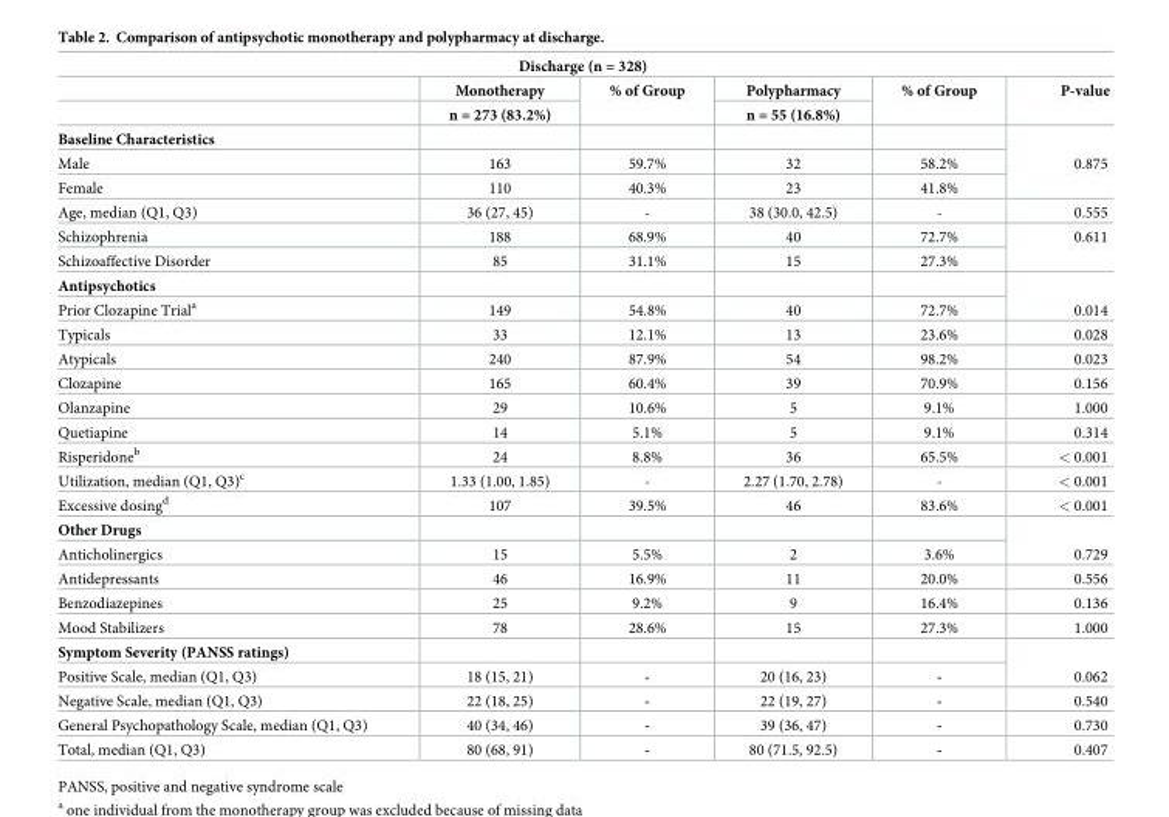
<table><thead><tr><td colspan="6">Discharge (n = 328)</td></tr><tr><td rowspan="2"></td><td rowspan="2">Monotherapy n = 273 (83.2%)</td><td rowspan="2">% of Group</td><td rowspan="2">Polypharmacy n = 55 (16.8%)</td><td rowspan="2">% of Group</td><td rowspan="2">P-value</td></tr><tr></tr></thead><tbody><tr><td colspan="6">Baseline Characteristics</td></tr><tr><td>Male</td><td>163</td><td>59.7%</td><td>32</td><td>58.2%</td><td rowspan="2">0.875</td></tr><tr><td>Female</td><td>110</td><td>40.3%</td><td>23</td><td>41.8%</td></tr><tr><td>Age, median (Q1, Q3)</td><td>36 (27, 45)</td><td>-</td><td>38 (30.0, 42.5)</td><td>-</td><td>0.555</td></tr><tr><td>Schizophrenia</td><td>188</td><td>68.9%</td><td>40</td><td>72.7%</td><td rowspan="2">0.611</td></tr><tr><td>Schizoaffective Disorder</td><td>85</td><td>31.1%</td><td>15</td><td>27.3%</td></tr><tr><td colspan="6">Antipsychotics</td></tr><tr><td>Prior Clozapine Trial<sup>a</sup></td><td>149</td><td>54.8%</td><td>40</td><td>72.7%</td><td>0.014</td></tr><tr><td>Typicals</td><td>33</td><td>12.1%</td><td>13</td><td>23.6%</td><td>0.028</td></tr><tr><td>Atypicals</td><td>240</td><td>87.9%</td><td>54</td><td>98.2%</td><td>0.023</td></tr><tr><td>Clozapine</td><td>165</td><td>60.4%</td><td>39</td><td>70.9%</td><td>0.156</td></tr><tr><td>Olanzapine</td><td>29</td><td>10.6%</td><td>5</td><td>9.1%</td><td>1.000</td></tr><tr><td>Quetiapine</td><td>14</td><td>5.1%</td><td>5</td><td>9.1%</td><td>0.314</td></tr><tr><td>Risperidone<sup>b</sup></td><td>24</td><td>8.8%</td><td>36</td><td>65.5%</td><td>&lt; 0.001</td></tr><tr><td>Utilization, median (Q1, Q3)<sup>c</sup></td><td>1.33 (1.00, 1.85)</td><td>-</td><td>2.27 (1.70, 2.78)</td><td>-</td><td>&lt; 0.001</td></tr><tr><td>Excessive dosing<sup>d</sup></td><td>107</td><td>39.5%</td><td>46</td><td>83.6%</td><td>&lt; 0.001</td></tr><tr><td colspan="6">Other Drugs</td></tr><tr><td>Anticholinergics</td><td>15</td><td>5.5%</td><td>2</td><td>3.6%</td><td>0.729</td></tr><tr><td>Antidepressants</td><td>46</td><td>16.9%</td><td>11</td><td>20.0%</td><td>0.556</td></tr><tr><td>Benzodiazepines</td><td>25</td><td>9.2%</td><td>9</td><td>16.4%</td><td>0.136</td></tr><tr><td>Mood Stabilizers</td><td>78</td><td>28.6%</td><td>15</td><td>27.3%</td><td>1.000</td></tr><tr><td colspan="6">Symptom Severity (PANSS ratings)</td></tr><tr><td>Positive Scale, median (Q1, Q3)</td><td>18 (15, 21)</td><td>-</td><td>20 (16, 23)</td><td>-</td><td>0.062</td></tr><tr><td>Negative Scale, median (Q1, Q3)</td><td>22 (18, 25)</td><td>-</td><td>22 (19, 27)</td><td>-</td><td>0.540</td></tr><tr><td>General Psychopathology Scale, median (Q1, Q3)</td><td>40 (34, 46)</td><td>-</td><td>39 (36, 47)</td><td>-</td><td>0.730</td></tr><tr><td>Total, median (Q1, Q3)</td><td>80 (68, 91)</td><td>-</td><td>80 (71.5, 92.5)</td><td>-</td><td>0.407</td></tr></tbody></table>